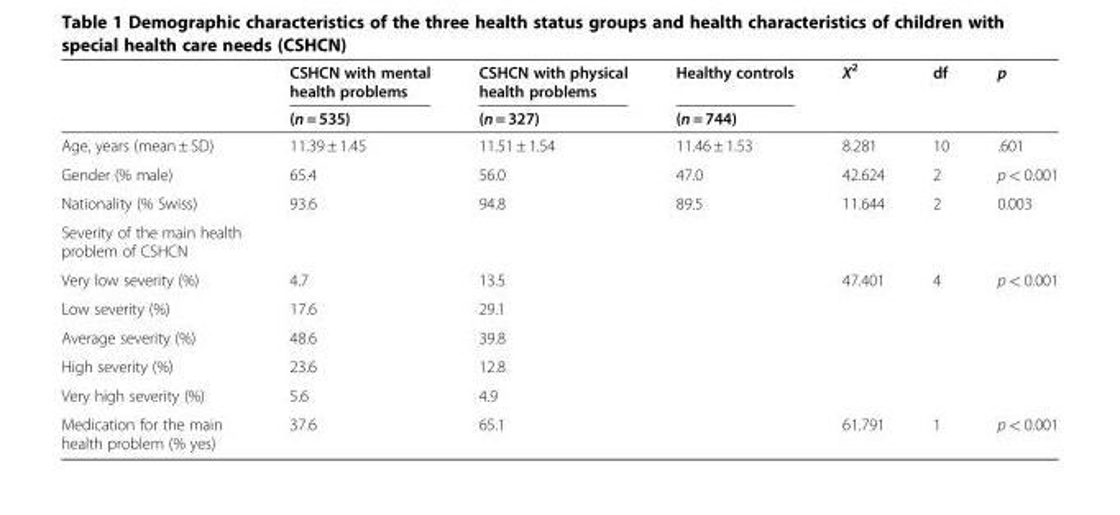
<table><thead><tr><td rowspan="2"></td><td rowspan="2">CSHCN with mental health problems (n = 535)</td><td rowspan="2">CSHCN with physical health problems (n = 327)</td><td rowspan="2">Healthy controls (n = 744)</td><td rowspan="2">X<sup>2</sup></td><td rowspan="2">df</td><td rowspan="2">p</td></tr><tr></tr></thead><tbody><tr><td>Age, years (mean ± SD)</td><td>11.39 ± 1.45</td><td>11.51 ± 1.54</td><td>11.46 ± 1.53</td><td>8.281</td><td>10</td><td>.601</td></tr><tr><td>Gender (% male)</td><td>65.4</td><td>56.0</td><td>47.0</td><td>42.624</td><td>2</td><td>p &lt; 0.001</td></tr><tr><td>Nationality (% Swiss)</td><td>93.6</td><td>94.8</td><td>89.5</td><td>11.644</td><td>2</td><td>0.003</td></tr><tr><td colspan="7">Severity of the main health problem of CSHCN</td></tr><tr><td>Very low severity (%)</td><td>4.7</td><td>13.5</td><td></td><td rowspan="5">47.401</td><td rowspan="5">4</td><td rowspan="5">p &lt; 0.001</td></tr><tr><td>Low severity (%)</td><td>17.6</td><td>29.1</td><td></td></tr><tr><td>Average severity (%)</td><td>48.6</td><td>39.8</td><td></td></tr><tr><td>High severity (%)</td><td>23.6</td><td>12.8</td><td></td></tr><tr><td>Very high severity (%)</td><td>5.6</td><td>4.9</td><td></td></tr><tr><td>Medication for the main health problem (% yes)</td><td>37.6</td><td>65.1</td><td></td><td>61.791</td><td>1</td><td>p &lt; 0.001</td></tr></tbody></table>